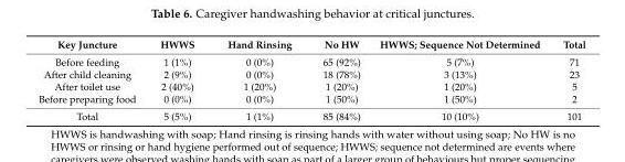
<table><thead><tr><td>Key Juncture</td><td>HWWS</td><td>Hand Rinsing</td><td>No HW</td><td>HWWS; Sequence Not Determined</td><td>Total</td></tr></thead><tbody><tr><td>Before feeding</td><td>1 (1%)</td><td>0 (0%)</td><td>65 (92%)</td><td>5 (7%)</td><td>71</td></tr><tr><td>After child cleaning</td><td>2 (9%)</td><td>0 (0%)</td><td>18 (78%)</td><td>3 (13%)</td><td>23</td></tr><tr><td>After toilet use</td><td>2 (40%)</td><td>1 (20%)</td><td>1 (20%)</td><td>1 (20%)</td><td>5</td></tr><tr><td>Before preparing food</td><td>0 (0%)</td><td>0 (0%)</td><td>1 (50%)</td><td>1 (50%)</td><td>2</td></tr><tr><td>Total</td><td>5 (5%)</td><td>1 (1%)</td><td>85 (84%)</td><td>10 (10%)</td><td>101</td></tr></tbody></table>